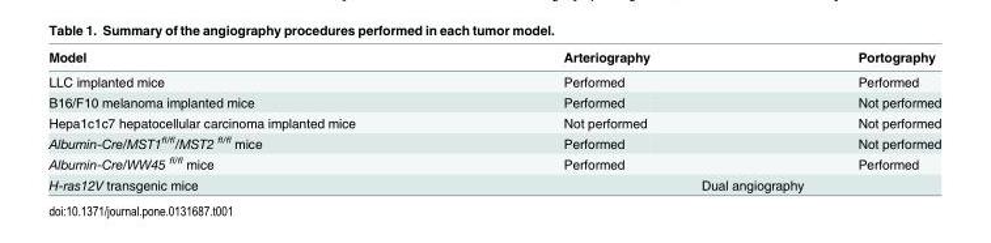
<table><thead><tr><td>Model</td><td>Arteriography</td><td>Portography</td></tr></thead><tbody><tr><td>LLC implanted mice</td><td>Performed</td><td>Performed</td></tr><tr><td>B16/F10 melanoma implanted mice</td><td>Performed</td><td>Not performed</td></tr><tr><td>Hepa1c1c7 hepatocellular carcinoma implanted mice</td><td>Not performed</td><td>Not performed</td></tr><tr><td>Albumin-Cre/MST1<sup>fl/fl</sup>/MST2 <sup>fl/fl</sup> mice</td><td>Performed</td><td>Not performed</td></tr><tr><td>Albumin-Cre/WW45 <sup>fl/fl</sup> mice</td><td>Performed</td><td>Performed</td></tr><tr><td>H-ras12V transgenic mice</td><td colspan="2">Dual angiography</td></tr></tbody></table>